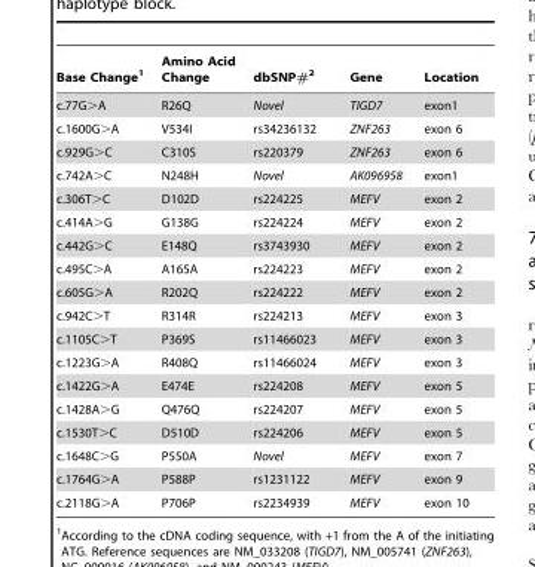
<table><thead><tr><td>Base Change<sup>1</sup></td><td>Amino Acid Change</td><td>dbSNP#<sup>2</sup></td><td>Gene</td><td>Location</td></tr></thead><tbody><tr><td>c.77G&gt;A</td><td>R26Q</td><td>Novel</td><td>TIGD7</td><td>exon1</td></tr><tr><td>c.1600G&gt;A</td><td>V534I</td><td>rs34236132</td><td>ZNF263</td><td>exon 6</td></tr><tr><td>c.929G&gt;C</td><td>C310S</td><td>rs220379</td><td>ZNF263</td><td>exon 6</td></tr><tr><td>c.742A&gt;C</td><td>N248H</td><td>Novel</td><td>AK096958</td><td>exon1</td></tr><tr><td>c.306T&gt;C</td><td>D102D</td><td>rs224225</td><td>MEFV</td><td>exon 2</td></tr><tr><td>c.414A&gt;G</td><td>G138G</td><td>rs224224</td><td>MEFV</td><td>exon 2</td></tr><tr><td>c.442G&gt;C</td><td>E148Q</td><td>rs3743930</td><td>MEFV</td><td>exon 2</td></tr><tr><td>c.495C&gt;A</td><td>A165A</td><td>rs224223</td><td>MEFV</td><td>exon 2</td></tr><tr><td>c.605G&gt;A</td><td>R202Q</td><td>rs224222</td><td>MEFV</td><td>exon 2</td></tr><tr><td>c.942C&gt;T</td><td>R314R</td><td>rs224213</td><td>MEFV</td><td>exon 3</td></tr><tr><td>c.1105C&gt;T</td><td>P369S</td><td>rs11466023</td><td>MEFV</td><td>exon 3</td></tr><tr><td>c.1223G&gt;A</td><td>R408Q</td><td>rs11466024</td><td>MEFV</td><td>exon 3</td></tr><tr><td>c.1422G&gt;A</td><td>E474E</td><td>rs224208</td><td>MEFV</td><td>exon 5</td></tr><tr><td>c.1428A&gt;G</td><td>Q476Q</td><td>rs224207</td><td>MEFV</td><td>exon 5</td></tr><tr><td>c.1530T&gt;C</td><td>D510D</td><td>rs224206</td><td>MEFV</td><td>exon 5</td></tr><tr><td>c.1648C&gt;G</td><td>P550A</td><td>Novel</td><td>MEFV</td><td>exon 7</td></tr><tr><td>c.1764G&gt;A</td><td>P588P</td><td>rs1231122</td><td>MEFV</td><td>exon 9</td></tr><tr><td>c.2118G&gt;A</td><td>P706P</td><td>rs2234939</td><td>MEFV</td><td>exon 10</td></tr></tbody></table>